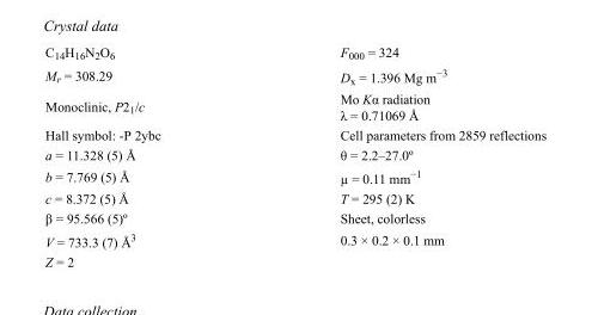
<table><tbody><tr><td>C<sub>14</sub>H<sub>16</sub>N<sub>2</sub>O<sub>6</sub></td><td>F<sub>000</sub> = 324</td></tr><tr><td>M<sub>r</sub> = 308.29</td><td>D<sub>x</sub> = 1.396 Mg m<sup>−3</sup></td></tr><tr><td>Monoclinic, P2<sub>1</sub>/c</td><td>Mo Kα radiation λ = 0.71069 Å</td></tr><tr><td>Hall symbol: -P 2ybc</td><td>Cell parameters from 2859 reflections</td></tr><tr><td>a = 11.328 (5) Å</td><td>θ = 2.2–27.0º</td></tr><tr><td>b = 7.769 (5) Å</td><td>µ = 0.11 mm<sup>−1</sup></td></tr><tr><td>c = 8.372 (5) Å</td><td>T = 295 (2) K</td></tr><tr><td>β = 95.566 (5)º</td><td>Sheet, colorless</td></tr><tr><td>V = 733.3 (7) Å<sup>3</sup></td><td>0.3 × 0.2 × 0.1 mm</td></tr><tr><td>Z = 2</td><td></td></tr></tbody></table>